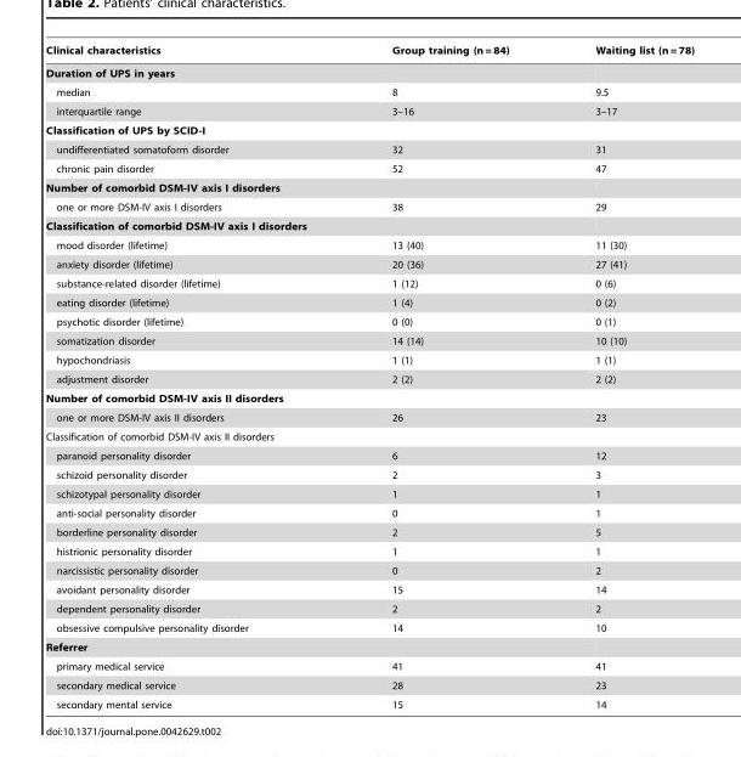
<table><thead><tr><td>Clinical characteristics</td><td>Group training (n = 84)</td><td>Waiting list (n = 78)</td></tr></thead><tbody><tr><td colspan="3">Duration of UPS in years</td></tr><tr><td>median</td><td>8</td><td>9.5</td></tr><tr><td>interquartile range</td><td>3–16</td><td>3–17</td></tr><tr><td colspan="3">Classification of UPS by SCID-I</td></tr><tr><td>undifferentiated somatoform disorder</td><td>32</td><td>31</td></tr><tr><td>chronic pain disorder</td><td>52</td><td>47</td></tr><tr><td colspan="3">Number of comorbid DSM-IV axis I disorders</td></tr><tr><td>one or more DSM-IV axis I disorders</td><td>38</td><td>29</td></tr><tr><td colspan="3">Classification of comorbid DSM-IV axis I disorders</td></tr><tr><td>mood disorder (lifetime)</td><td>13 (40)</td><td>11 (30)</td></tr><tr><td>anxiety disorder (lifetime)</td><td>20 (36)</td><td>27 (41)</td></tr><tr><td>substance-related disorder (lifetime)</td><td>1 (12)</td><td>0 (6)</td></tr><tr><td>eating disorder (lifetime)</td><td>1 (4)</td><td>0 (2)</td></tr><tr><td>psychotic disorder (lifetime)</td><td>0 (0)</td><td>0 (1)</td></tr><tr><td>somatization disorder</td><td>14 (14)</td><td>10 (10)</td></tr><tr><td>hypochondriasis</td><td>1 (1)</td><td>1 (1)</td></tr><tr><td>adjustment disorder</td><td>2 (2)</td><td>2 (2)</td></tr><tr><td colspan="3">Number of comorbid DSM-IV axis II disorders</td></tr><tr><td>one or more DSM-IV axis II disorders</td><td>26</td><td>23</td></tr><tr><td colspan="3">Classification of comorbid DSM-IV axis II disorders</td></tr><tr><td>paranoid personality disorder</td><td>6</td><td>12</td></tr><tr><td>schizoid personality disorder</td><td>2</td><td>3</td></tr><tr><td>schizotypal personality disorder</td><td>1</td><td>1</td></tr><tr><td>anti-social personality disorder</td><td>0</td><td>1</td></tr><tr><td>borderline personality disorder</td><td>2</td><td>5</td></tr><tr><td>histrionic personality disorder</td><td>1</td><td>1</td></tr><tr><td>narcissistic personality disorder</td><td>0</td><td>2</td></tr><tr><td>avoidant personality disorder</td><td>15</td><td>14</td></tr><tr><td>dependent personality disorder</td><td>2</td><td>2</td></tr><tr><td>obsessive compulsive personality disorder</td><td>14</td><td>10</td></tr><tr><td colspan="3">Referrer</td></tr><tr><td>primary medical service</td><td>41</td><td>41</td></tr><tr><td>secondary medical service</td><td>28</td><td>23</td></tr><tr><td>secondary mental service</td><td>15</td><td>14</td></tr></tbody></table>